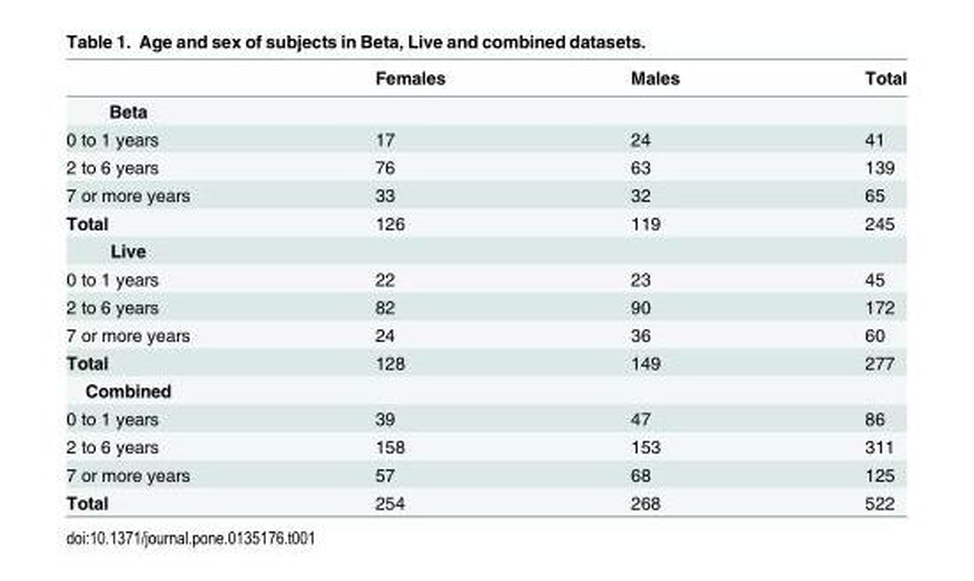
<table><thead><tr><td></td><td>Females</td><td>Males</td><td>Total</td></tr></thead><tbody><tr><td colspan="4">Beta</td></tr><tr><td>0 to 1 years</td><td>17</td><td>24</td><td>41</td></tr><tr><td>2 to 6 years</td><td>76</td><td>63</td><td>139</td></tr><tr><td>7 or more years</td><td>33</td><td>32</td><td>65</td></tr><tr><td>Total</td><td>126</td><td>119</td><td>245</td></tr><tr><td colspan="4">Live</td></tr><tr><td>0 to 1 years</td><td>22</td><td>23</td><td>45</td></tr><tr><td>2 to 6 years</td><td>82</td><td>90</td><td>172</td></tr><tr><td>7 or more years</td><td>24</td><td>36</td><td>60</td></tr><tr><td>Total</td><td>128</td><td>149</td><td>277</td></tr><tr><td colspan="4">Combined</td></tr><tr><td>0 to 1 years</td><td>39</td><td>47</td><td>86</td></tr><tr><td>2 to 6 years</td><td>158</td><td>153</td><td>311</td></tr><tr><td>7 or more years</td><td>57</td><td>68</td><td>125</td></tr><tr><td>Total</td><td>254</td><td>268</td><td>522</td></tr></tbody></table>